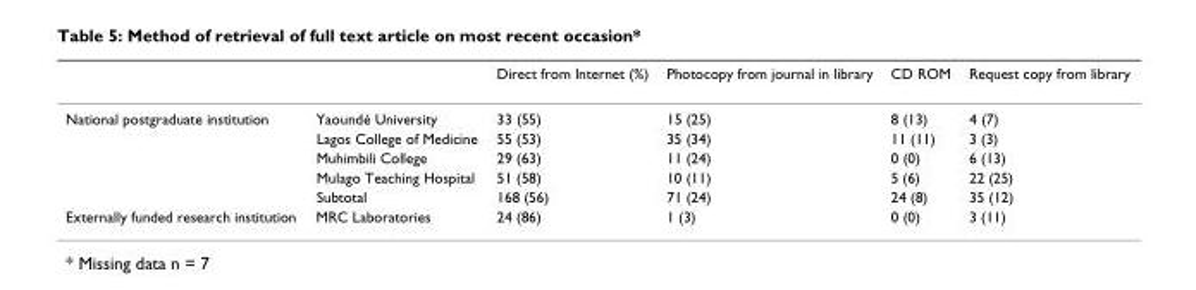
<table><thead><tr><td></td><td></td><td>Direct from Internet (%)</td><td>Photocopy from journal in library</td><td>CD ROM</td><td>Request copy from library</td></tr></thead><tbody><tr><td rowspan="5">National postgraduate institution</td><td>Yaoundé University</td><td>33 (55)</td><td>15 (25)</td><td>8 (13)</td><td>4 (7)</td></tr><tr><td>Lagos College of Medicine</td><td>55 (53)</td><td>35 (34)</td><td>11 (11)</td><td>3 (3)</td></tr><tr><td>Muhimbili College</td><td>29 (63)</td><td>11 (24)</td><td>0 (0)</td><td>6 (13)</td></tr><tr><td>Mulago Teaching Hospital</td><td>51 (58)</td><td>10 (11)</td><td>5 (6)</td><td>22 (25)</td></tr><tr><td>Subtotal</td><td>168 (56)</td><td>71 (24)</td><td>24 (8)</td><td>35 (12)</td></tr><tr><td>Externally funded research institution</td><td>MRC Laboratories</td><td>24 (86)</td><td>1 (3)</td><td>0 (0)</td><td>3 (11)</td></tr></tbody></table>